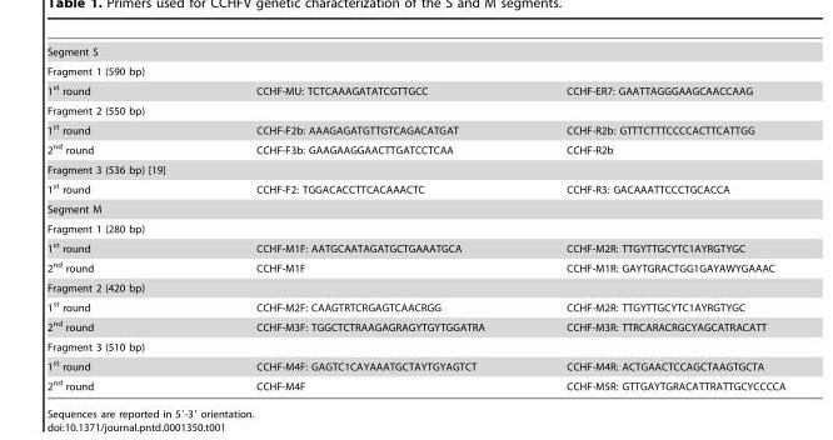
<table><tbody><tr><td colspan="3">Segment S</td></tr><tr><td colspan="3">Fragment 1 (590 bp)</td></tr><tr><td>1<sup>st</sup> round</td><td>CCHF-MU: TCTCAAAGATATCGTTGCC</td><td>CCHF-ER7: GAATTAGGGAAGCAACCAAG</td></tr><tr><td colspan="3">Fragment 2 (550 bp)</td></tr><tr><td>1<sup>st</sup> round</td><td>CCHF-F2b: AAAGAGATGTTGTCAGACATGAT</td><td>CCHF-R2b: GTTTCTTTCCCCACTTCATTGG</td></tr><tr><td>2<sup>nd</sup> round</td><td>CCHF-F3b: GAAGAAGGAACTTGATCCTCAA</td><td>CCHF-R2b</td></tr><tr><td colspan="3">Fragment 3 (536 bp) [19]</td></tr><tr><td>1<sup>st</sup> round</td><td>CCHF-F2: TGGACACCTTCACAAACTC</td><td>CCHF-R3: GACAAATTCCCTGCACCA</td></tr><tr><td colspan="3">Segment M</td></tr><tr><td colspan="3">Fragment 1 (280 bp)</td></tr><tr><td>1<sup>st</sup> round</td><td>CCHF-M1F: AATGCAATAGATGCTGAAATGCA</td><td>CCHF-M2R: TTGYTTGCYTC1AYRGTYGC</td></tr><tr><td>2<sup>nd</sup> round</td><td>CCHF-M1F</td><td>CCHF-M1R: GAYTGRACTGG1GAYAWYGAAAC</td></tr><tr><td colspan="3">Fragment 2 (420 bp)</td></tr><tr><td>1<sup>st</sup> round</td><td>CCHF-M2F: CAAGTRTCRGAGTCAACRGG</td><td>CCHF-M2R: TTGYTTGCYTC1AYRGTYGC</td></tr><tr><td>2<sup>nd</sup> round</td><td>CCHF-M3F: TGGCTCTRAAGAGRAGYTGYTGGATRA</td><td>CCHF-M3R: TTRCARACRGCYAGCATRACATT</td></tr><tr><td colspan="3">Fragment 3 (510 bp)</td></tr><tr><td>1<sup>st</sup> round</td><td>CCHF-M4F: GAGTC1CAYAAATGCTAYTGYAGTCT</td><td>CCHF-M4R: ACTGAACTCCAGCTAAGTGCTA</td></tr><tr><td>2<sup>nd</sup> round</td><td>CCHF-M4F</td><td>CCHF-M5R: GTTGAYTGRACATTRATTGCYCCCCA</td></tr></tbody></table>